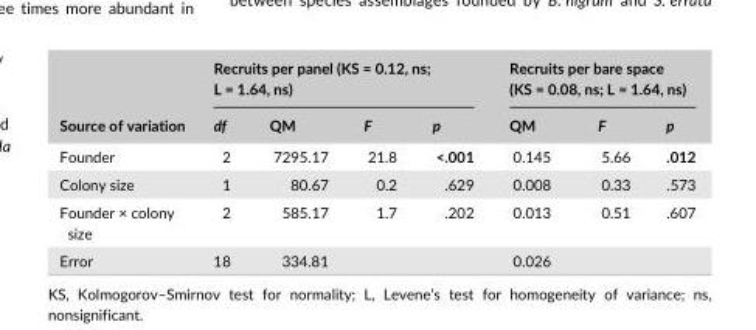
<table><thead><tr><td rowspan="2">Source of variation</td><td colspan="4">Recruits per panel (KS = 0.12, ns; L = 1.64, ns)</td><td colspan="3">Recruits per bare space (KS = 0.08, ns; L = 1.64, ns)</td></tr><tr><td>df</td><td>QM</td><td>F</td><td>p</td><td>QM</td><td>F</td><td>p</td></tr></thead><tbody><tr><td>Founder</td><td>2</td><td>7295.17</td><td>21.8</td><td>&lt;.001</td><td>0.145</td><td>5.66</td><td>.012</td></tr><tr><td>Colony size</td><td>1</td><td>80.67</td><td>0.2</td><td>.629</td><td>0.008</td><td>0.33</td><td>.573</td></tr><tr><td>Founder × colony size</td><td>2</td><td>585.17</td><td>1.7</td><td>.202</td><td>0.013</td><td>0.51</td><td>.607</td></tr><tr><td>Error</td><td>18</td><td>334.81</td><td></td><td></td><td>0.026</td><td></td><td></td></tr></tbody></table>